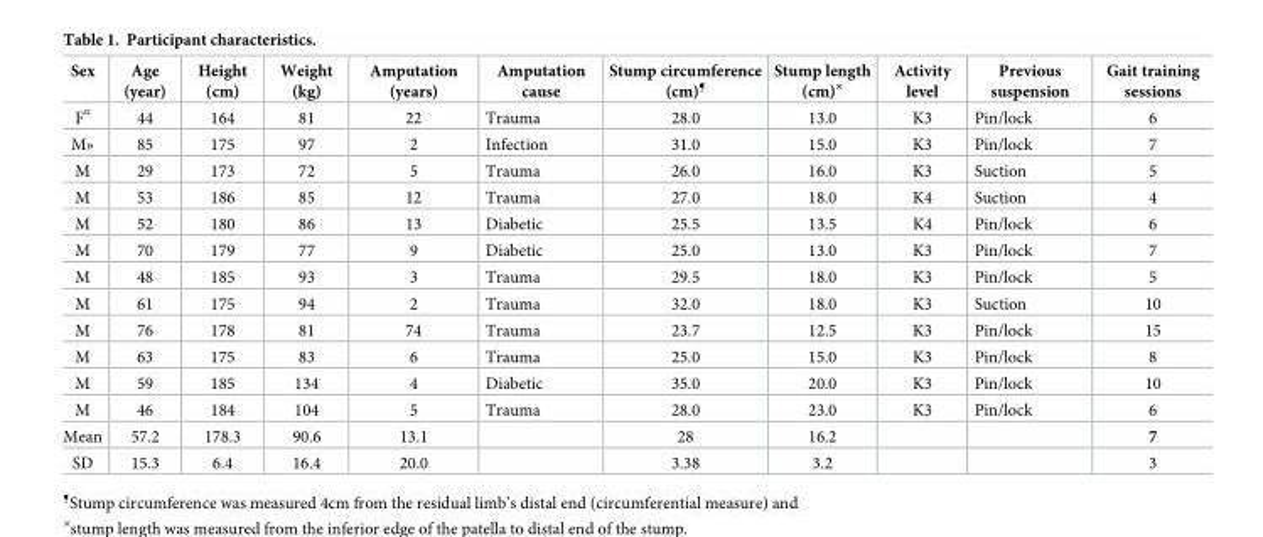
<table><thead><tr><td>Sex</td><td>Age (year)</td><td>Height (cm)</td><td>Weight (kg)</td><td>Amputation (years)</td><td>Amputation cause</td><td>Stump circumference (cm)<sup>¶</sup></td><td>Stump length (cm)<sup>×</sup></td><td>Activity level</td><td>Previous suspension</td><td>Gait training sessions</td></tr></thead><tbody><tr><td>F<sup>¤</sup></td><td>44</td><td>164</td><td>81</td><td>22</td><td>Trauma</td><td>28.0</td><td>13.0</td><td>K3</td><td>Pin/lock</td><td>6</td></tr><tr><td>M»</td><td>85</td><td>175</td><td>97</td><td>2</td><td>Infection</td><td>31.0</td><td>15.0</td><td>K3</td><td>Pin/lock</td><td>7</td></tr><tr><td>M</td><td>29</td><td>173</td><td>72</td><td>5</td><td>Trauma</td><td>26.0</td><td>16.0</td><td>K3</td><td>Suction</td><td>5</td></tr><tr><td>M</td><td>53</td><td>186</td><td>85</td><td>12</td><td>Trauma</td><td>27.0</td><td>18.0</td><td>K4</td><td>Suction</td><td>4</td></tr><tr><td>M</td><td>52</td><td>180</td><td>86</td><td>13</td><td>Diabetic</td><td>25.5</td><td>13.5</td><td>K4</td><td>Pin/lock</td><td>6</td></tr><tr><td>M</td><td>70</td><td>179</td><td>77</td><td>9</td><td>Diabetic</td><td>25.0</td><td>13.0</td><td>K3</td><td>Pin/lock</td><td>7</td></tr><tr><td>M</td><td>48</td><td>185</td><td>93</td><td>3</td><td>Trauma</td><td>29.5</td><td>18.0</td><td>K3</td><td>Pin/lock</td><td>5</td></tr><tr><td>M</td><td>61</td><td>175</td><td>94</td><td>2</td><td>Trauma</td><td>32.0</td><td>18.0</td><td>K3</td><td>Suction</td><td>10</td></tr><tr><td>M</td><td>76</td><td>178</td><td>81</td><td>74</td><td>Trauma</td><td>23.7</td><td>12.5</td><td>K3</td><td>Pin/lock</td><td>15</td></tr><tr><td>M</td><td>63</td><td>175</td><td>83</td><td>6</td><td>Trauma</td><td>25.0</td><td>15.0</td><td>K3</td><td>Pin/lock</td><td>8</td></tr><tr><td>M</td><td>59</td><td>185</td><td>134</td><td>4</td><td>Diabetic</td><td>35.0</td><td>20.0</td><td>K3</td><td>Pin/lock</td><td>10</td></tr><tr><td>M</td><td>46</td><td>184</td><td>104</td><td>5</td><td>Trauma</td><td>28.0</td><td>23.0</td><td>K3</td><td>Pin/lock</td><td>6</td></tr><tr><td>Mean</td><td>57.2</td><td>178.3</td><td>90.6</td><td>13.1</td><td></td><td>28</td><td>16.2</td><td></td><td></td><td>7</td></tr><tr><td>SD</td><td>15.3</td><td>6.4</td><td>16.4</td><td>20.0</td><td></td><td>3.38</td><td>3.2</td><td></td><td></td><td>3</td></tr></tbody></table>